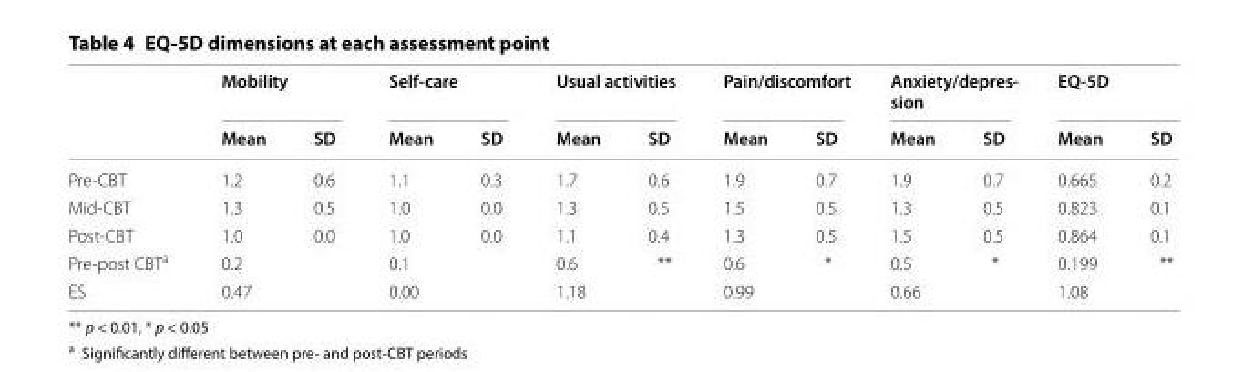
<table><thead><tr><td rowspan="2"></td><td colspan="2">Mobility</td><td colspan="2">Self-care</td><td colspan="2">Usual activities</td><td colspan="2">Pain/discomfort</td><td colspan="2">Anxiety/depres- sion</td><td colspan="2">EQ-5D</td></tr><tr><td>Mean</td><td>SD</td><td>Mean</td><td>SD</td><td>Mean</td><td>SD</td><td>Mean</td><td>SD</td><td>Mean</td><td>SD</td><td>Mean</td><td>SD</td></tr></thead><tbody><tr><td>Pre-CBT</td><td>1.2</td><td>0.6</td><td>1.1</td><td>0.3</td><td>1.7</td><td>0.6</td><td>1.9</td><td>0.7</td><td>1.9</td><td>0.7</td><td>0.665</td><td>0.2</td></tr><tr><td>Mid-CBT</td><td>1.3</td><td>0.5</td><td>1.0</td><td>0.0</td><td>1.3</td><td>0.5</td><td>1.5</td><td>0.5</td><td>1.3</td><td>0.5</td><td>0.823</td><td>0.1</td></tr><tr><td>Post-CBT</td><td>1.0</td><td>0.0</td><td>1.0</td><td>0.0</td><td>1.1</td><td>0.4</td><td>1.3</td><td>0.5</td><td>1.5</td><td>0.5</td><td>0.864</td><td>0.1</td></tr><tr><td>Pre-post CBT<sup>a</sup></td><td>0.2</td><td></td><td>0.1</td><td></td><td>0.6</td><td>**</td><td>0.6</td><td>*</td><td>0.5</td><td>*</td><td>0.199</td><td>**</td></tr><tr><td>ES</td><td>0.47</td><td></td><td>0.00</td><td></td><td>1.18</td><td></td><td>0.99</td><td></td><td>0.66</td><td></td><td>1.08</td><td></td></tr></tbody></table>